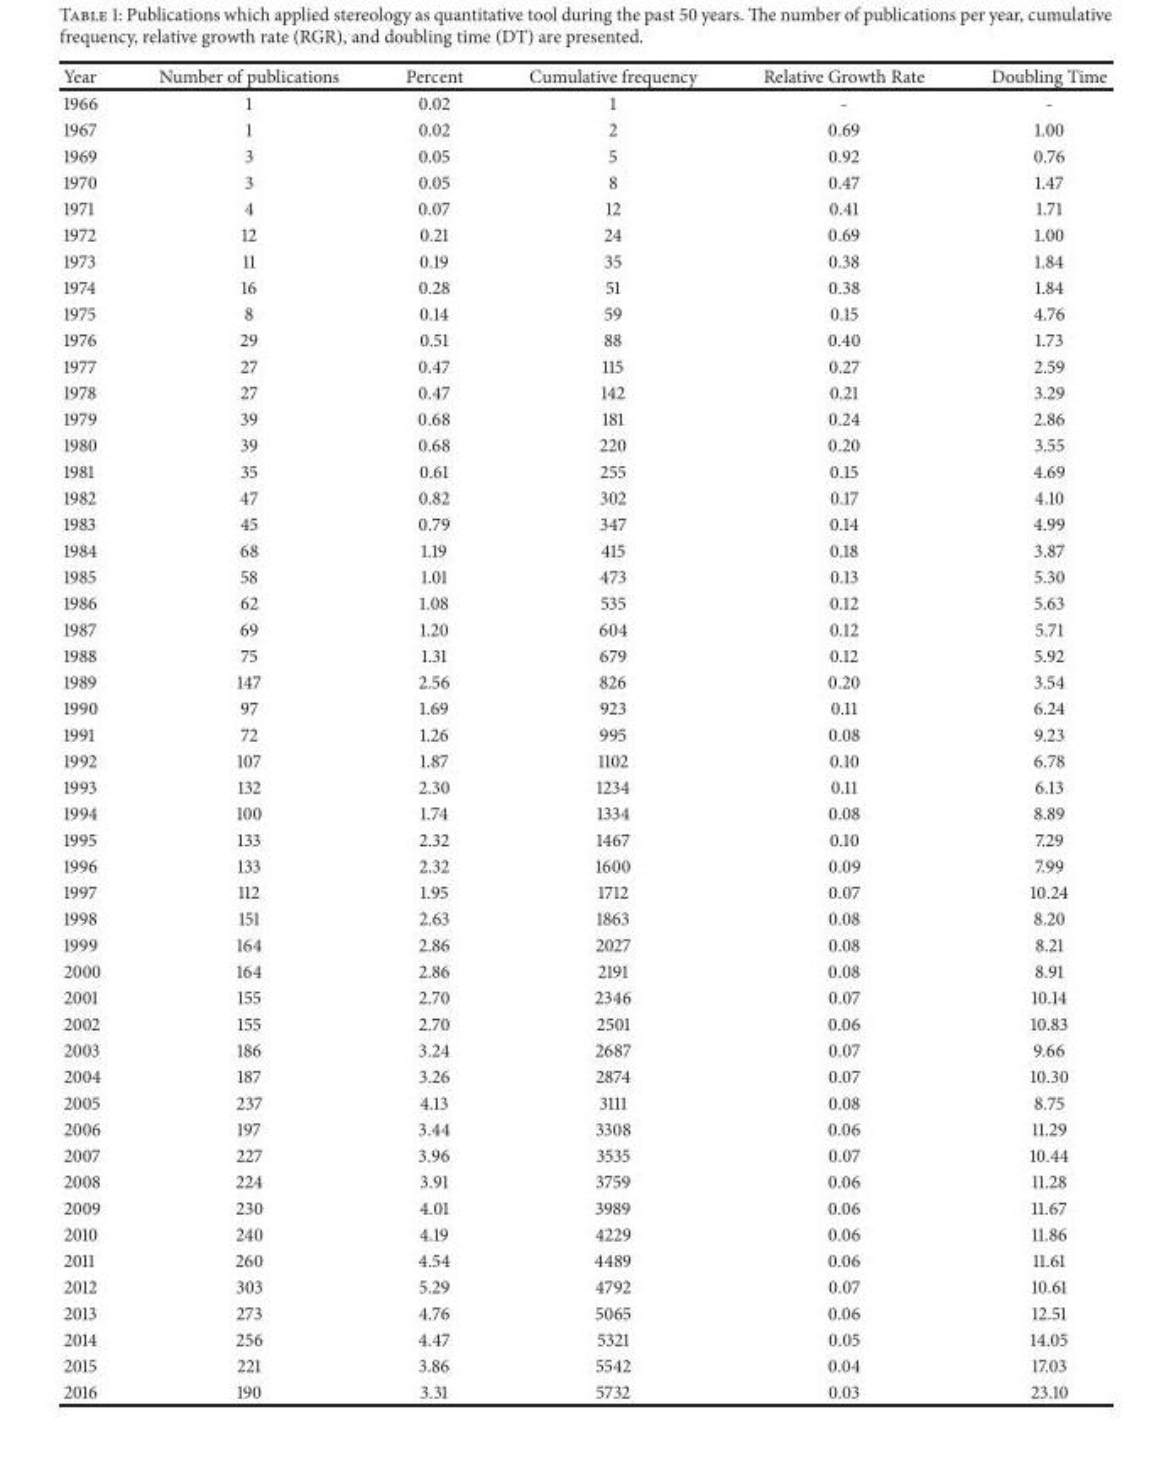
<table><thead><tr><td>Year</td><td>Number of publications</td><td>Percent</td><td>Cumulative frequency</td><td>Relative Growth Rate</td><td>Doubling Time</td></tr></thead><tbody><tr><td>1966</td><td>1</td><td>0.02</td><td>1</td><td>-</td><td>-</td></tr><tr><td>1967</td><td>1</td><td>0.02</td><td>2</td><td>0.69</td><td>1.00</td></tr><tr><td>1969</td><td>3</td><td>0.05</td><td>5</td><td>0.92</td><td>0.76</td></tr><tr><td>1970</td><td>3</td><td>0.05</td><td>8</td><td>0.47</td><td>1.47</td></tr><tr><td>1971</td><td>4</td><td>0.07</td><td>12</td><td>0.41</td><td>1.71</td></tr><tr><td>1972</td><td>12</td><td>0.21</td><td>24</td><td>0.69</td><td>1.00</td></tr><tr><td>1973</td><td>11</td><td>0.19</td><td>35</td><td>0.38</td><td>1.84</td></tr><tr><td>1974</td><td>16</td><td>0.28</td><td>51</td><td>0.38</td><td>1.84</td></tr><tr><td>1975</td><td>8</td><td>0.14</td><td>59</td><td>0.15</td><td>4.76</td></tr><tr><td>1976</td><td>29</td><td>0.51</td><td>88</td><td>0.40</td><td>1.73</td></tr><tr><td>1977</td><td>27</td><td>0.47</td><td>115</td><td>0.27</td><td>2.59</td></tr><tr><td>1978</td><td>27</td><td>0.47</td><td>142</td><td>0.21</td><td>3.29</td></tr><tr><td>1979</td><td>39</td><td>0.68</td><td>181</td><td>0.24</td><td>2.86</td></tr><tr><td>1980</td><td>39</td><td>0.68</td><td>220</td><td>0.20</td><td>3.55</td></tr><tr><td>1981</td><td>35</td><td>0.61</td><td>255</td><td>0.15</td><td>4.69</td></tr><tr><td>1982</td><td>47</td><td>0.82</td><td>302</td><td>0.17</td><td>4.10</td></tr><tr><td>1983</td><td>45</td><td>0.79</td><td>347</td><td>0.14</td><td>4.99</td></tr><tr><td>1984</td><td>68</td><td>1.19</td><td>415</td><td>0.18</td><td>3.87</td></tr><tr><td>1985</td><td>58</td><td>1.01</td><td>473</td><td>0.13</td><td>5.30</td></tr><tr><td>1986</td><td>62</td><td>1.08</td><td>535</td><td>0.12</td><td>5.63</td></tr><tr><td>1987</td><td>69</td><td>1.20</td><td>604</td><td>0.12</td><td>5.71</td></tr><tr><td>1988</td><td>75</td><td>1.31</td><td>679</td><td>0.12</td><td>5.92</td></tr><tr><td>1989</td><td>147</td><td>2.56</td><td>826</td><td>0.20</td><td>3.54</td></tr><tr><td>1990</td><td>97</td><td>1.69</td><td>923</td><td>0.11</td><td>6.24</td></tr><tr><td>1991</td><td>72</td><td>1.26</td><td>995</td><td>0.08</td><td>9.23</td></tr><tr><td>1992</td><td>107</td><td>1.87</td><td>1102</td><td>0.10</td><td>6.78</td></tr><tr><td>1993</td><td>132</td><td>2.30</td><td>1234</td><td>0.11</td><td>6.13</td></tr><tr><td>1994</td><td>100</td><td>1.74</td><td>1334</td><td>0.08</td><td>8.89</td></tr><tr><td>1995</td><td>133</td><td>2.32</td><td>1467</td><td>0.10</td><td>7.29</td></tr><tr><td>1996</td><td>133</td><td>2.32</td><td>1600</td><td>0.09</td><td>7.99</td></tr><tr><td>1997</td><td>112</td><td>1.95</td><td>1712</td><td>0.07</td><td>10.24</td></tr><tr><td>1998</td><td>151</td><td>2.63</td><td>1863</td><td>0.08</td><td>8.20</td></tr><tr><td>1999</td><td>164</td><td>2.86</td><td>2027</td><td>0.08</td><td>8.21</td></tr><tr><td>2000</td><td>164</td><td>2.86</td><td>2191</td><td>0.08</td><td>8.91</td></tr><tr><td>2001</td><td>155</td><td>2.70</td><td>2346</td><td>0.07</td><td>10.14</td></tr><tr><td>2002</td><td>155</td><td>2.70</td><td>2501</td><td>0.06</td><td>10.83</td></tr><tr><td>2003</td><td>186</td><td>3.24</td><td>2687</td><td>0.07</td><td>9.66</td></tr><tr><td>2004</td><td>187</td><td>3.26</td><td>2874</td><td>0.07</td><td>10.30</td></tr><tr><td>2005</td><td>237</td><td>4.13</td><td>3111</td><td>0.08</td><td>8.75</td></tr><tr><td>2006</td><td>197</td><td>3.44</td><td>3308</td><td>0.06</td><td>11.29</td></tr><tr><td>2007</td><td>227</td><td>3.96</td><td>3535</td><td>0.07</td><td>10.44</td></tr><tr><td>2008</td><td>224</td><td>3.91</td><td>3759</td><td>0.06</td><td>11.28</td></tr><tr><td>2009</td><td>230</td><td>4.01</td><td>3989</td><td>0.06</td><td>11.67</td></tr><tr><td>2010</td><td>240</td><td>4.19</td><td>4229</td><td>0.06</td><td>11.86</td></tr><tr><td>2011</td><td>260</td><td>4.54</td><td>4489</td><td>0.06</td><td>11.61</td></tr><tr><td>2012</td><td>303</td><td>5.29</td><td>4792</td><td>0.07</td><td>10.61</td></tr><tr><td>2013</td><td>273</td><td>4.76</td><td>5065</td><td>0.06</td><td>12.51</td></tr><tr><td>2014</td><td>256</td><td>4.47</td><td>5321</td><td>0.05</td><td>14.05</td></tr><tr><td>2015</td><td>221</td><td>3.86</td><td>5542</td><td>0.04</td><td>17.03</td></tr><tr><td>2016</td><td>190</td><td>3.31</td><td>5732</td><td>0.03</td><td>23.10</td></tr></tbody></table>